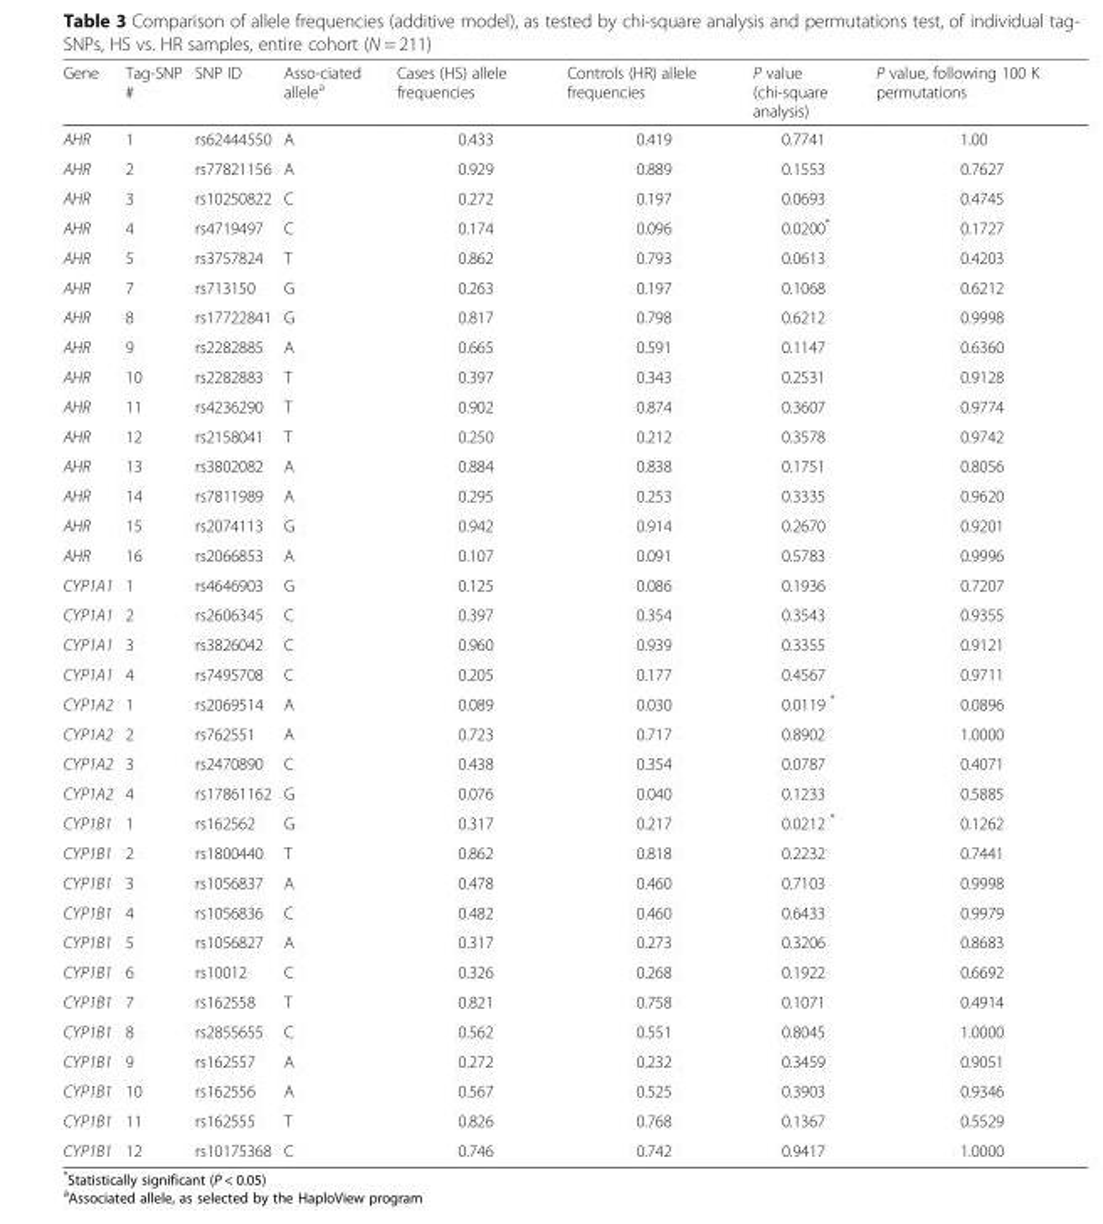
<table><thead><tr><td>Gene</td><td>Tag-SNP #</td><td>SNP ID</td><td>Asso-ciated allele<sup>a</sup></td><td>Cases (HS) allele frequencies</td><td>Controls (HR) allele frequencies</td><td>P value (chi-square analysis)</td><td>P value, following 100 K permutations</td></tr></thead><tbody><tr><td>AHR</td><td>1</td><td>rs62444550</td><td>A</td><td>0.433</td><td>0.419</td><td>0.7741</td><td>1.00</td></tr><tr><td>AHR</td><td>2</td><td>rs77821156</td><td>A</td><td>0.929</td><td>0.889</td><td>0.1553</td><td>0.7627</td></tr><tr><td>AHR</td><td>3</td><td>rs10250822</td><td>C</td><td>0.272</td><td>0.197</td><td>0.0693</td><td>0.4745</td></tr><tr><td>AHR</td><td>4</td><td>rs4719497</td><td>C</td><td>0.174</td><td>0.096</td><td>0.0200*</td><td>0.1727</td></tr><tr><td>AHR</td><td>5</td><td>rs3757824</td><td>T</td><td>0.862</td><td>0.793</td><td>0.0613</td><td>0.4203</td></tr><tr><td>AHR</td><td>7</td><td>rs713150</td><td>G</td><td>0.263</td><td>0.197</td><td>0.1068</td><td>0.6212</td></tr><tr><td>AHR</td><td>8</td><td>rs17722841</td><td>G</td><td>0.817</td><td>0.798</td><td>0.6212</td><td>0.9998</td></tr><tr><td>AHR</td><td>9</td><td>rs2282885</td><td>A</td><td>0.665</td><td>0.591</td><td>0.1147</td><td>0.6360</td></tr><tr><td>AHR</td><td>10</td><td>rs2282883</td><td>T</td><td>0.397</td><td>0.343</td><td>0.2531</td><td>0.9128</td></tr><tr><td>AHR</td><td>11</td><td>rs4236290</td><td>T</td><td>0.902</td><td>0.874</td><td>0.3607</td><td>0.9774</td></tr><tr><td>AHR</td><td>12</td><td>rs2158041</td><td>T</td><td>0.250</td><td>0.212</td><td>0.3578</td><td>0.9742</td></tr><tr><td>AHR</td><td>13</td><td>rs3802082</td><td>A</td><td>0.884</td><td>0.838</td><td>0.1751</td><td>0.8056</td></tr><tr><td>AHR</td><td>14</td><td>rs7811989</td><td>A</td><td>0.295</td><td>0.253</td><td>0.3335</td><td>0.9620</td></tr><tr><td>AHR</td><td>15</td><td>rs2074113</td><td>G</td><td>0.942</td><td>0.914</td><td>0.2670</td><td>0.9201</td></tr><tr><td>AHR</td><td>16</td><td>rs2066853</td><td>A</td><td>0.107</td><td>0.091</td><td>0.5783</td><td>0.9996</td></tr><tr><td>CYP1A1</td><td>1</td><td>rs4646903</td><td>G</td><td>0.125</td><td>0.086</td><td>0.1936</td><td>0.7207</td></tr><tr><td>CYP1A1</td><td>2</td><td>rs2606345</td><td>C</td><td>0.397</td><td>0.354</td><td>0.3543</td><td>0.9355</td></tr><tr><td>CYP1A1</td><td>3</td><td>rs3826042</td><td>C</td><td>0.960</td><td>0.939</td><td>0.3355</td><td>0.9121</td></tr><tr><td>CYP1A1</td><td>4</td><td>rs7495708</td><td>C</td><td>0.205</td><td>0.177</td><td>0.4567</td><td>0.9711</td></tr><tr><td>CYP1A2</td><td>1</td><td>rs2069514</td><td>A</td><td>0.089</td><td>0.030</td><td>0.0119 *</td><td>0.0896</td></tr><tr><td>CYP1A2</td><td>2</td><td>rs762551</td><td>A</td><td>0.723</td><td>0.717</td><td>0.8902</td><td>1.0000</td></tr><tr><td>CYP1A2</td><td>3</td><td>rs2470890</td><td>C</td><td>0.438</td><td>0.354</td><td>0.0787</td><td>0.4071</td></tr><tr><td>CYP1A2</td><td>4</td><td>rs17861162</td><td>G</td><td>0.076</td><td>0.040</td><td>0.1233</td><td>0.5885</td></tr><tr><td>CYP1B1</td><td>1</td><td>rs162562</td><td>G</td><td>0.317</td><td>0.217</td><td>0.0212 *</td><td>0.1262</td></tr><tr><td>CYP1B1</td><td>2</td><td>rs1800440</td><td>T</td><td>0.862</td><td>0.818</td><td>0.2232</td><td>0.7441</td></tr><tr><td>CYP1B1</td><td>3</td><td>rs1056837</td><td>A</td><td>0.478</td><td>0.460</td><td>0.7103</td><td>0.9998</td></tr><tr><td>CYP1B1</td><td>4</td><td>rs1056836</td><td>C</td><td>0.482</td><td>0.460</td><td>0.6433</td><td>0.9979</td></tr><tr><td>CYP1B1</td><td>5</td><td>rs1056827</td><td>A</td><td>0.317</td><td>0.273</td><td>0.3206</td><td>0.8683</td></tr><tr><td>CYP1B1</td><td>6</td><td>rs10012</td><td>C</td><td>0.326</td><td>0.268</td><td>0.1922</td><td>0.6692</td></tr><tr><td>CYP1B1</td><td>7</td><td>rs162558</td><td>T</td><td>0.821</td><td>0.758</td><td>0.1071</td><td>0.4914</td></tr><tr><td>CYP1B1</td><td>8</td><td>rs2855655</td><td>C</td><td>0.562</td><td>0.551</td><td>0.8045</td><td>1.0000</td></tr><tr><td>CYP1B1</td><td>9</td><td>rs162557</td><td>A</td><td>0.272</td><td>0.232</td><td>0.3459</td><td>0.9051</td></tr><tr><td>CYP1B1</td><td>10</td><td>rs162556</td><td>A</td><td>0.567</td><td>0.525</td><td>0.3903</td><td>0.9346</td></tr><tr><td>CYP1B1</td><td>11</td><td>rs162555</td><td>T</td><td>0.826</td><td>0.768</td><td>0.1367</td><td>0.5529</td></tr><tr><td>CYP1B1</td><td>12</td><td>rs10175368</td><td>C</td><td>0.746</td><td>0.742</td><td>0.9417</td><td>1.0000</td></tr></tbody></table>